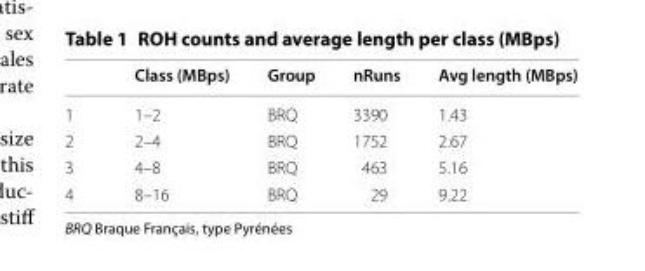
<table><thead><tr><td></td><td>Class (MBps)</td><td>Group</td><td>nRuns</td><td>Avg length (MBps)</td></tr></thead><tbody><tr><td>1</td><td>1–2</td><td>BRQ</td><td>3390</td><td>1.43</td></tr><tr><td>2</td><td>2–4</td><td>BRQ</td><td>1752</td><td>2.67</td></tr><tr><td>3</td><td>4–8</td><td>BRQ</td><td>463</td><td>5.16</td></tr><tr><td>4</td><td>8–16</td><td>BRQ</td><td>29</td><td>9.22</td></tr></tbody></table>